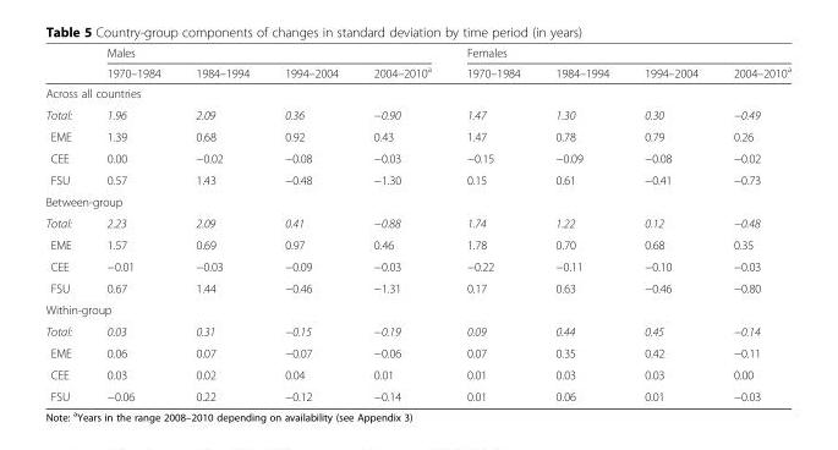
<table><thead><tr><td rowspan="2"></td><td colspan="4">Males</td><td colspan="4">Females</td></tr><tr><td>1970–1984</td><td>1984–1994</td><td>1994–2004</td><td>2004–2010<sup>a</sup></td><td>1970–1984</td><td>1984–1994</td><td>1994–2004</td><td>2004–2010<sup>a</sup></td></tr></thead><tbody><tr><td colspan="9">Across all countries</td></tr><tr><td>Total:</td><td>1.96</td><td>2.09</td><td>0.36</td><td>−0.90</td><td>1.47</td><td>1.30</td><td>0.30</td><td>−0.49</td></tr><tr><td>EME</td><td>1.39</td><td>0.68</td><td>0.92</td><td>0.43</td><td>1.47</td><td>0.78</td><td>0.79</td><td>0.26</td></tr><tr><td>CEE</td><td>0.00</td><td>−0.02</td><td>−0.08</td><td>−0.03</td><td>−0.15</td><td>−0.09</td><td>−0.08</td><td>−0.02</td></tr><tr><td>FSU</td><td>0.57</td><td>1.43</td><td>−0.48</td><td>−1.30</td><td>0.15</td><td>0.61</td><td>−0.41</td><td>−0.73</td></tr><tr><td colspan="9">Between-group</td></tr><tr><td>Total:</td><td>2.23</td><td>2.09</td><td>0.41</td><td>−0.88</td><td>1.74</td><td>1.22</td><td>0.12</td><td>−0.48</td></tr><tr><td>EME</td><td>1.57</td><td>0.69</td><td>0.97</td><td>0.46</td><td>1.78</td><td>0.70</td><td>0.68</td><td>0.35</td></tr><tr><td>CEE</td><td>−0.01</td><td>−0.03</td><td>−0.09</td><td>−0.03</td><td>−0.22</td><td>−0.11</td><td>−0.10</td><td>−0.03</td></tr><tr><td>FSU</td><td>0.67</td><td>1.44</td><td>−0.46</td><td>−1.31</td><td>0.17</td><td>0.63</td><td>−0.46</td><td>−0.80</td></tr><tr><td colspan="9">Within-group</td></tr><tr><td>Total:</td><td>0.03</td><td>0.31</td><td>−0.15</td><td>−0.19</td><td>0.09</td><td>0.44</td><td>0.45</td><td>−0.14</td></tr><tr><td>EME</td><td>0.06</td><td>0.07</td><td>−0.07</td><td>−0.06</td><td>0.07</td><td>0.35</td><td>0.42</td><td>−0.11</td></tr><tr><td>CEE</td><td>0.03</td><td>0.02</td><td>0.04</td><td>0.01</td><td>0.01</td><td>0.03</td><td>0.03</td><td>0.00</td></tr><tr><td>FSU</td><td>−0.06</td><td>0.22</td><td>−0.12</td><td>−0.14</td><td>0.01</td><td>0.06</td><td>0.01</td><td>−0.03</td></tr></tbody></table>